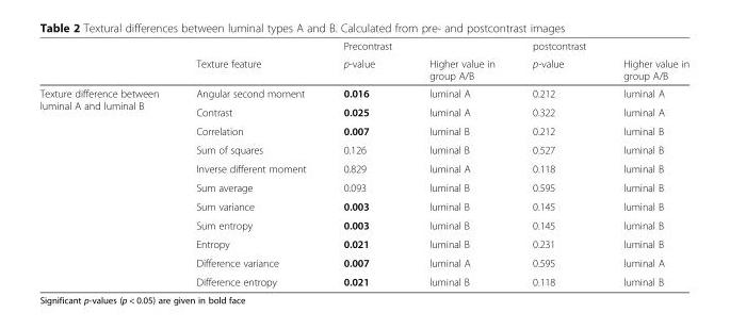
<table><thead><tr><td rowspan="2"></td><td rowspan="2">Texture feature</td><td rowspan="2">Precontrast p-value</td><td rowspan="2">Higher value in group A/B</td><td rowspan="2">postcontrast p-value</td><td rowspan="2">Higher value in group A/B</td></tr><tr></tr></thead><tbody><tr><td rowspan="11">Texture difference between luminal A and luminal B</td><td>Angular second moment</td><td>0.016</td><td>luminal A</td><td>0.212</td><td>luminal A</td></tr><tr><td>Contrast</td><td>0.025</td><td>luminal A</td><td>0.322</td><td>luminal A</td></tr><tr><td>Correlation</td><td>0.007</td><td>luminal B</td><td>0.212</td><td>luminal B</td></tr><tr><td>Sum of squares</td><td>0.126</td><td>luminal B</td><td>0.527</td><td>luminal B</td></tr><tr><td>Inverse different moment</td><td>0.829</td><td>luminal A</td><td>0.118</td><td>luminal B</td></tr><tr><td>Sum average</td><td>0.093</td><td>luminal B</td><td>0.595</td><td>luminal B</td></tr><tr><td>Sum variance</td><td>0.003</td><td>luminal B</td><td>0.145</td><td>luminal B</td></tr><tr><td>Sum entropy</td><td>0.003</td><td>luminal B</td><td>0.145</td><td>luminal B</td></tr><tr><td>Entropy</td><td>0.021</td><td>luminal B</td><td>0.231</td><td>luminal B</td></tr><tr><td>Difference variance</td><td>0.007</td><td>luminal A</td><td>0.595</td><td>luminal A</td></tr><tr><td>Difference entropy</td><td>0.021</td><td>luminal B</td><td>0.118</td><td>luminal B</td></tr></tbody></table>